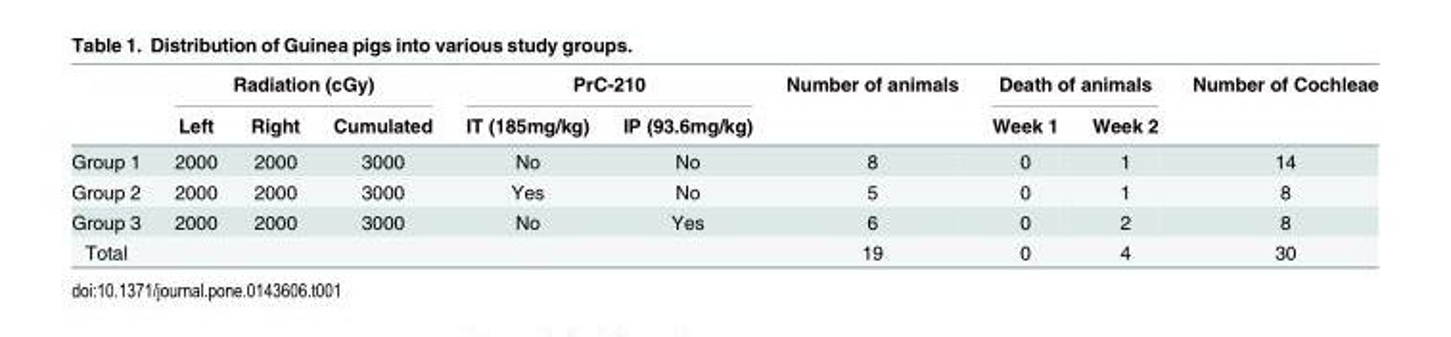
<table><thead><tr><td rowspan="2"></td><td colspan="3">Radiation (cGy)</td><td colspan="2">PrC-210</td><td rowspan="2">Number of animals</td><td colspan="2">Death of animals</td><td rowspan="2">Number of Cochleae</td></tr><tr><td>Left</td><td>Right</td><td>Cumulated</td><td>IT (185mg/kg)</td><td>IP (93.6mg/kg)</td><td>Week 1</td><td>Week 2</td></tr></thead><tbody><tr><td>Group 1</td><td>2000</td><td>2000</td><td>3000</td><td>No</td><td>No</td><td>8</td><td>0</td><td>1</td><td>14</td></tr><tr><td>Group 2</td><td>2000</td><td>2000</td><td>3000</td><td>Yes</td><td>No</td><td>5</td><td>0</td><td>1</td><td>8</td></tr><tr><td>Group 3</td><td>2000</td><td>2000</td><td>3000</td><td>No</td><td>Yes</td><td>6</td><td>0</td><td>2</td><td>8</td></tr><tr><td>Total</td><td></td><td></td><td></td><td></td><td></td><td>19</td><td>0</td><td>4</td><td>30</td></tr></tbody></table>